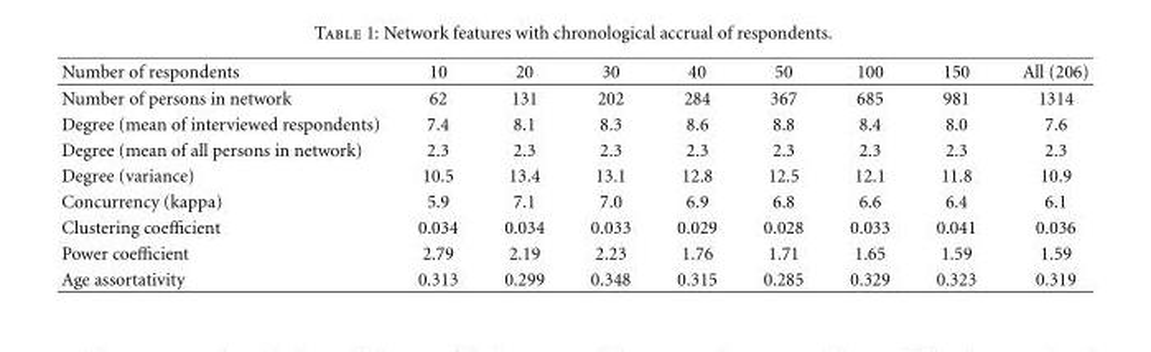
<table><thead><tr><td>Number of respondents</td><td>10</td><td>20</td><td>30</td><td>40</td><td>50</td><td>100</td><td>150</td><td>All (206)</td></tr></thead><tbody><tr><td>Number of persons in network</td><td>62</td><td>131</td><td>202</td><td>284</td><td>367</td><td>685</td><td>981</td><td>1314</td></tr><tr><td>Degree (mean of interviewed respondents)</td><td>7.4</td><td>8.1</td><td>8.3</td><td>8.6</td><td>8.8</td><td>8.4</td><td>8.0</td><td>7.6</td></tr><tr><td>Degree (mean of all persons in network)</td><td>2.3</td><td>2.3</td><td>2.3</td><td>2.3</td><td>2.3</td><td>2.3</td><td>2.3</td><td>2.3</td></tr><tr><td>Degree (variance)</td><td>10.5</td><td>13.4</td><td>13.1</td><td>12.8</td><td>12.5</td><td>12.1</td><td>11.8</td><td>10.9</td></tr><tr><td>Concurrency (kappa)</td><td>5.9</td><td>7.1</td><td>7.0</td><td>6.9</td><td>6.8</td><td>6.6</td><td>6.4</td><td>6.1</td></tr><tr><td>Clustering coefficient</td><td>0.034</td><td>0.034</td><td>0.033</td><td>0.029</td><td>0.028</td><td>0.033</td><td>0.041</td><td>0.036</td></tr><tr><td>Power coefficient</td><td>2.79</td><td>2.19</td><td>2.23</td><td>1.76</td><td>1.71</td><td>1.65</td><td>1.59</td><td>1.59</td></tr><tr><td>Age assortativity</td><td>0.313</td><td>0.299</td><td>0.348</td><td>0.315</td><td>0.285</td><td>0.329</td><td>0.323</td><td>0.319</td></tr></tbody></table>